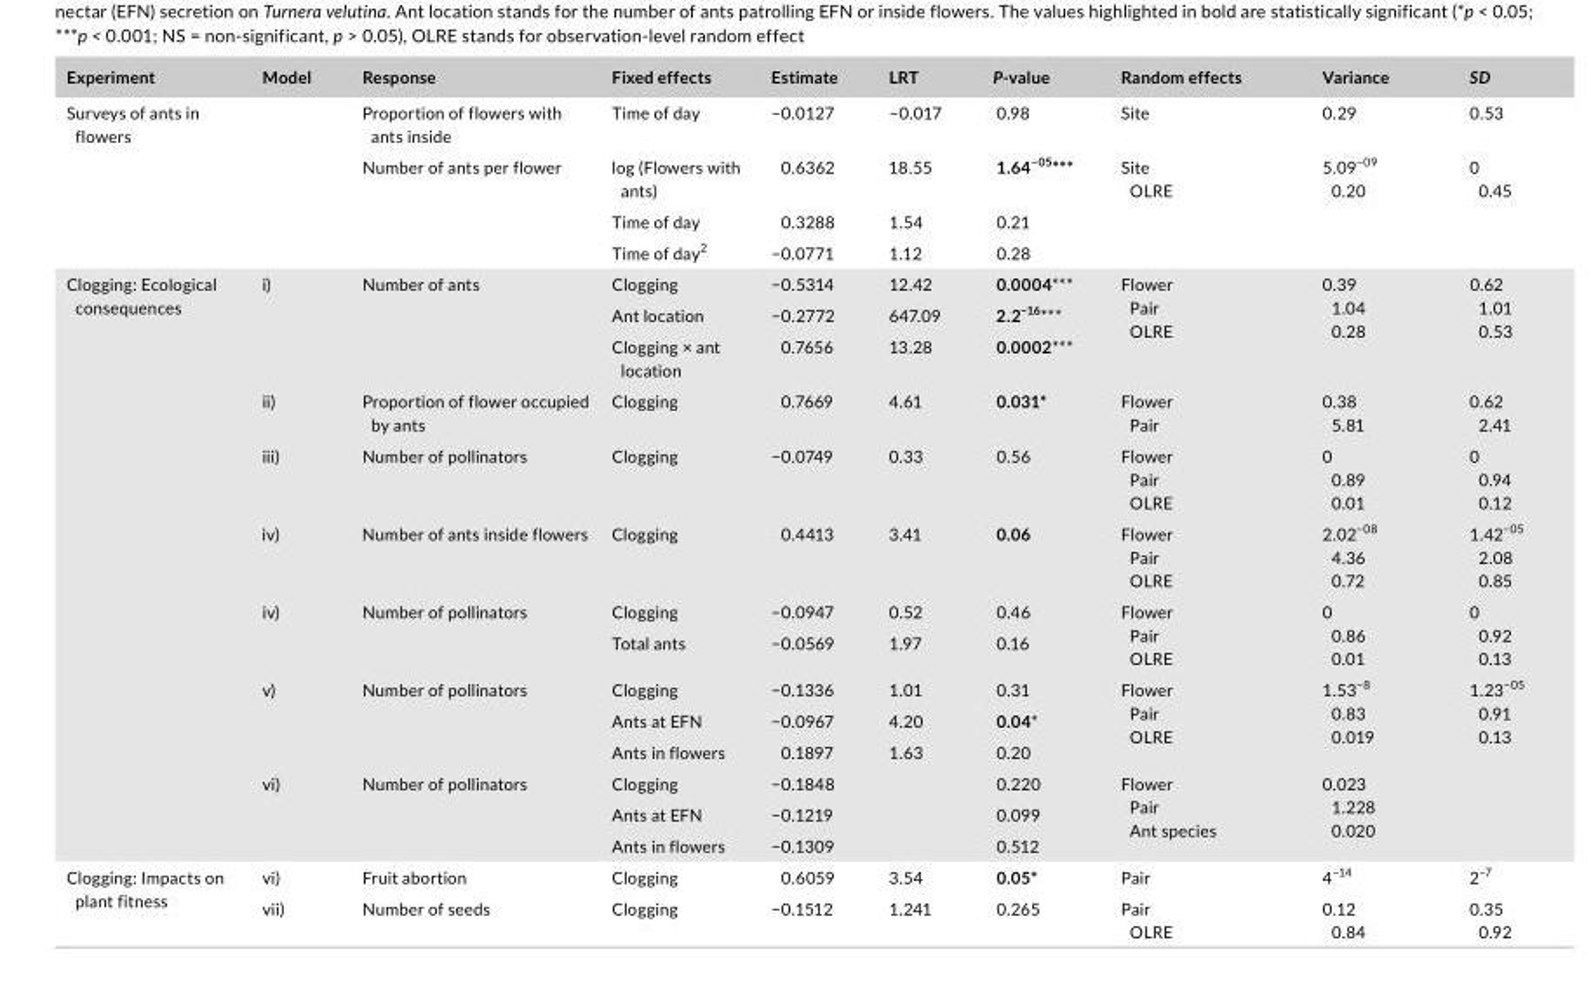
<table><thead><tr><td>Experiment</td><td>Model</td><td>Response</td><td>Fixed effects</td><td>Estimate</td><td>LRT</td><td>P‐value</td><td>Random effects</td><td>Variance</td><td>SD</td></tr></thead><tbody><tr><td rowspan="4">Surveys of ants in flowers</td><td></td><td>Proportion of flowers with ants inside</td><td>Time of day</td><td>−0.0127</td><td>−0.017</td><td>0.98</td><td>Site</td><td>0.29</td><td>0.53</td></tr><tr><td></td><td rowspan="3">Number of ants per flower</td><td>log (Flowers with ants)</td><td>0.6362</td><td>18.55</td><td>1.64<sup>−05</sup>***</td><td rowspan="3">Site OLRE</td><td rowspan="3">5.09<sup>−09</sup> 0.20</td><td rowspan="3">0 0.45</td></tr><tr><td></td><td>Time of day</td><td>0.3288</td><td>1.54</td><td>0.21</td></tr><tr><td></td><td>Time of day<sup>2</sup></td><td>−0.0771</td><td>1.12</td><td>0.28</td></tr><tr><td rowspan="14">Clogging: Ecological consequences</td><td rowspan="3">i)</td><td rowspan="3">Number of ants</td><td>Clogging</td><td>−0.5314</td><td>12.42</td><td>0.0004***</td><td rowspan="3">Flower Pair OLRE</td><td rowspan="3">0.39 1.04 0.28</td><td rowspan="3">0.62 1.01 0.53</td></tr><tr><td>Ant location</td><td>−0.2772</td><td>647.09</td><td>2.2<sup>−16</sup>***</td></tr><tr><td>Clogging × ant location</td><td>0.7656</td><td>13.28</td><td>0.0002***</td></tr><tr><td>ii)</td><td>Proportion of flower occupied by ants</td><td>Clogging</td><td>0.7669</td><td>4.61</td><td>0.031*</td><td>Flower Pair</td><td>0.38 5.81</td><td>0.62 2.41</td></tr><tr><td>iii)</td><td>Number of pollinators</td><td>Clogging</td><td>−0.0749</td><td>0.33</td><td>0.56</td><td>Flower Pair OLRE</td><td>0 0.89 0.01</td><td>0 0.94 0.12</td></tr><tr><td>iv)</td><td>Number of ants inside flowers</td><td>Clogging</td><td>0.4413</td><td>3.41</td><td>0.06</td><td>Flower Pair OLRE</td><td>2.02<sup>−08</sup> 4.36 0.72</td><td>1.42<sup>−05</sup> 2.08 0.85</td></tr><tr><td rowspan="2">iv)</td><td rowspan="2">Number of pollinators</td><td>Clogging</td><td>−0.0947</td><td>0.52</td><td>0.46</td><td rowspan="2">Flower Pair OLRE</td><td rowspan="2">0 0.86 0.01</td><td rowspan="2">0 0.92 0.13</td></tr><tr><td>Total ants</td><td>−0.0569</td><td>1.97</td><td>0.16</td></tr><tr><td rowspan="3">v)</td><td rowspan="3">Number of pollinators</td><td>Clogging</td><td>−0.1336</td><td>1.01</td><td>0.31</td><td rowspan="3">Flower Pair OLRE</td><td rowspan="3">1.53<sup>−8</sup> 0.83 0.019</td><td rowspan="3">1.23<sup>−05</sup> 0.91 0.13</td></tr><tr><td>Ants at EFN</td><td>−0.0967</td><td>4.20</td><td>0.04*</td></tr><tr><td>Ants in flowers</td><td>0.1897</td><td>1.63</td><td>0.20</td></tr><tr><td rowspan="3">vi)</td><td rowspan="3">Number of pollinators</td><td>Clogging</td><td>−0.1848</td><td></td><td>0.220</td><td rowspan="3">Flower Pair Ant species</td><td rowspan="3">0.023 1.228 0.020</td><td rowspan="3"></td></tr><tr><td>Ants at EFN</td><td>−0.1219</td><td></td><td>0.099</td></tr><tr><td>Ants in flowers</td><td>−0.1309</td><td></td><td>0.512</td></tr><tr><td rowspan="2">Clogging: Impacts on plant fitness</td><td>vi)</td><td>Fruit abortion</td><td>Clogging</td><td>0.6059</td><td>3.54</td><td>0.05*</td><td>Pair</td><td>4<sup>−14</sup></td><td>2<sup>−7</sup></td></tr><tr><td>vii)</td><td>Number of seeds</td><td>Clogging</td><td>−0.1512</td><td>1.241</td><td>0.265</td><td>Pair OLRE</td><td>0.12 0.84</td><td>0.35 0.92</td></tr></tbody></table>